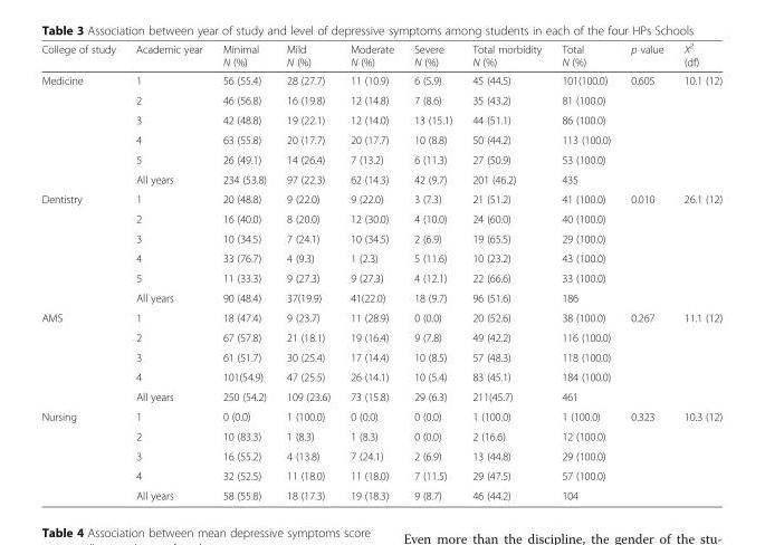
<table><thead><tr><td>College of study</td><td>Academic year</td><td>Minimal N (%)</td><td>Mild N (%)</td><td>Moderate N (%)</td><td>Severe N (%)</td><td>Total morbidity N (%)</td><td>Total N (%)</td><td>p value</td><td>X<sup>2</sup> (df)</td></tr></thead><tbody><tr><td rowspan="6">Medicine</td><td>1</td><td>56 (55.4)</td><td>28 (27.7)</td><td>11 (10.9)</td><td>6 (5.9)</td><td>45 (44.5)</td><td>101(100.0)</td><td rowspan="6">0.605</td><td rowspan="6">10.1 (12)</td></tr><tr><td>2</td><td>46 (56.8)</td><td>16 (19.8)</td><td>12 (14.8)</td><td>7 (8.6)</td><td>35 (43.2)</td><td>81 (100.0)</td></tr><tr><td>3</td><td>42 (48.8)</td><td>19 (22.1)</td><td>12 (14.0)</td><td>13 (15.1)</td><td>44 (51.1)</td><td>86 (100.0)</td></tr><tr><td>4</td><td>63 (55.8)</td><td>20 (17.7)</td><td>20 (17.7)</td><td>10 (8.8)</td><td>50 (44.2)</td><td>113 (100.0)</td></tr><tr><td>5</td><td>26 (49.1)</td><td>14 (26.4)</td><td>7 (13.2)</td><td>6 (11.3)</td><td>27 (50.9)</td><td>53 (100.0)</td></tr><tr><td>All years</td><td>234 (53.8)</td><td>97 (22.3)</td><td>62 (14.3)</td><td>42 (9.7)</td><td>201 (46.2)</td><td>435</td></tr><tr><td rowspan="6">Dentistry</td><td>1</td><td>20 (48.8)</td><td>9 (22.0)</td><td>9 (22.0)</td><td>3 (7.3)</td><td>21 (51.2)</td><td>41 (100.0)</td><td rowspan="6">0.010</td><td rowspan="6">26.1 (12)</td></tr><tr><td>2</td><td>16 (40.0)</td><td>8 (20.0)</td><td>12 (30.0)</td><td>4 (10.0)</td><td>24 (60.0)</td><td>40 (100.0)</td></tr><tr><td>3</td><td>10 (34.5)</td><td>7 (24.1)</td><td>10 (34.5)</td><td>2 (6.9)</td><td>19 (65.5)</td><td>29 (100.0)</td></tr><tr><td>4</td><td>33 (76.7)</td><td>4 (9.3)</td><td>1 (2.3)</td><td>5 (11.6)</td><td>10 (23.2)</td><td>43 (100.0)</td></tr><tr><td>5</td><td>11 (33.3)</td><td>9 (27.3)</td><td>9 (27.3)</td><td>4 (12.1)</td><td>22 (66.6)</td><td>33 (100.0)</td></tr><tr><td>All years</td><td>90 (48.4)</td><td>37(19.9)</td><td>41(22.0)</td><td>18 (9.7)</td><td>96 (51.6)</td><td>186</td></tr><tr><td rowspan="5">AMS</td><td>1</td><td>18 (47.4)</td><td>9 (23.7)</td><td>11 (28.9)</td><td>0 (0.0)</td><td>20 (52.6)</td><td>38 (100.0)</td><td rowspan="5">0.267</td><td rowspan="5">11.1 (12)</td></tr><tr><td>2</td><td>67 (57.8)</td><td>21 (18.1)</td><td>19 (16.4)</td><td>9 (7.8)</td><td>49 (42.2)</td><td>116 (100.0)</td></tr><tr><td>3</td><td>61 (51.7)</td><td>30 (25.4)</td><td>17 (14.4)</td><td>10 (8.5)</td><td>57 (48.3)</td><td>118 (100.0)</td></tr><tr><td>4</td><td>101(54.9)</td><td>47 (25.5)</td><td>26 (14.1)</td><td>10 (5.4)</td><td>83 (45.1)</td><td>184 (100.0)</td></tr><tr><td>All years</td><td>250 (54.2)</td><td>109 (23.6)</td><td>73 (15.8)</td><td>29 (6.3)</td><td>211(45.7)</td><td>461</td></tr><tr><td rowspan="5">Nursing</td><td>1</td><td>0 (0.0)</td><td>1 (100.0)</td><td>0 (0.0)</td><td>0 (0.0)</td><td>1 (100.0)</td><td>1 (100.0)</td><td rowspan="5">0.323</td><td rowspan="5">10.3 (12)</td></tr><tr><td>2</td><td>10 (83.3)</td><td>1 (8.3)</td><td>1 (8.3)</td><td>0 (0.0)</td><td>2 (16.6)</td><td>12 (100.0)</td></tr><tr><td>3</td><td>16 (55.2)</td><td>4 (13.8)</td><td>7 (24.1)</td><td>2 (6.9)</td><td>13 (44.8)</td><td>29 (100.0)</td></tr><tr><td>4</td><td>32 (52.5)</td><td>11 (18.0)</td><td>11 (18.0)</td><td>7 (11.5)</td><td>29 (47.5)</td><td>57 (100.0)</td></tr><tr><td>All years</td><td>58 (55.8)</td><td>18 (17.3)</td><td>19 (18.3)</td><td>9 (8.7)</td><td>46 (44.2)</td><td>104</td></tr></tbody></table>